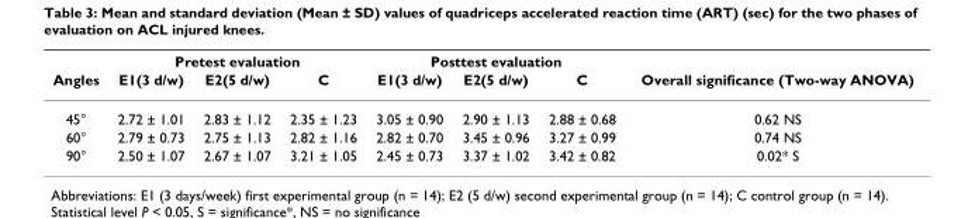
<table><thead><tr><td rowspan="2">Angles</td><td colspan="3">Pretest evaluation</td><td colspan="3">Posttest evaluation</td><td rowspan="2">Overall significance (Two-way ANOVA)</td></tr><tr><td>E1(3 d/w)</td><td>E2(5 d/w)</td><td>C</td><td>E1(3 d/w)</td><td>E2(5 d/w)</td><td>C</td></tr></thead><tbody><tr><td>45°</td><td>2.72 ± 1.01</td><td>2.83 ± 1.12</td><td>2.35 ± 1.23</td><td>3.05 ± 0.90</td><td>2.90 ± 1.13</td><td>2.88 ± 0.68</td><td>0.62 NS</td></tr><tr><td>60°</td><td>2.79 ± 0.73</td><td>2.75 ± 1.13</td><td>2.82 ± 1.16</td><td>2.82 ± 0.70</td><td>3.45 ± 0.96</td><td>3.27 ± 0.99</td><td>0.74 NS</td></tr><tr><td>90°</td><td>2.50 ± 1.07</td><td>2.67 ± 1.07</td><td>3.21 ± 1.05</td><td>2.45 ± 0.73</td><td>3.37 ± 1.02</td><td>3.42 ± 0.82</td><td>0.02* S</td></tr></tbody></table>